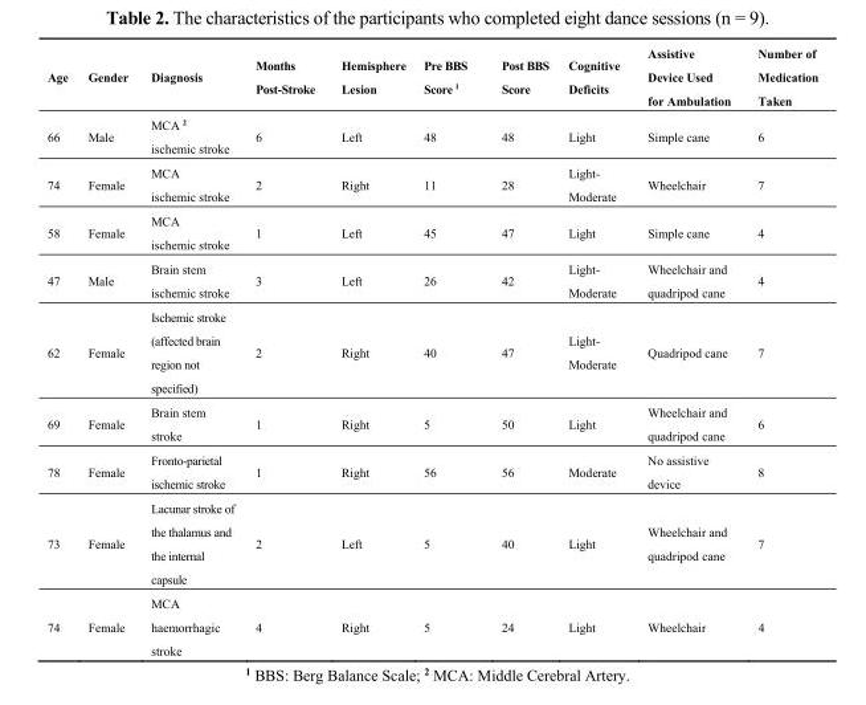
<table><thead><tr><td>Age</td><td>Gender</td><td>Diagnosis</td><td>Months Post-Stroke</td><td>Hemisphere Lesion</td><td>Pre BBS Score <sup>1</sup></td><td>Post BBS Score</td><td>Cognitive Deficits</td><td>Assistive Device Used for Ambulation</td><td>Number of Medication Taken</td></tr></thead><tbody><tr><td>66</td><td>Male</td><td>MCA <sup>2</sup> ischemic stroke</td><td>6</td><td>Left</td><td>48</td><td>48</td><td>Light</td><td>Simple cane</td><td>6</td></tr><tr><td>74</td><td>Female</td><td>MCA ischemic stroke</td><td>2</td><td>Right</td><td>11</td><td>28</td><td>Light- Moderate</td><td>Wheelchair</td><td>7</td></tr><tr><td>58</td><td>Female</td><td>MCA ischemic stroke</td><td>1</td><td>Left</td><td>45</td><td>47</td><td>Light</td><td>Simple cane</td><td>4</td></tr><tr><td>47</td><td>Male</td><td>Brain stem ischemic stroke</td><td>3</td><td>Left</td><td>26</td><td>42</td><td>Light- Moderate</td><td>Wheelchair and quadripod cane</td><td>4</td></tr><tr><td>62</td><td>Female</td><td>Ischemic stroke (affected brain region not specified)</td><td>2</td><td>Right</td><td>40</td><td>47</td><td>Light- Moderate</td><td>Quadripod cane</td><td>7</td></tr><tr><td>69</td><td>Female</td><td>Brain stem stroke</td><td>1</td><td>Right</td><td>5</td><td>50</td><td>Light</td><td>Wheelchair and quadripod cane</td><td>6</td></tr><tr><td>78</td><td>Female</td><td>Fronto-parietal ischemic stroke</td><td>1</td><td>Right</td><td>56</td><td>56</td><td>Moderate</td><td>No assistive device</td><td>8</td></tr><tr><td>73</td><td>Female</td><td>Lacunar stroke of the thalamus and the internal capsule</td><td>2</td><td>Left</td><td>5</td><td>40</td><td>Light</td><td>Wheelchair and quadripod cane</td><td>7</td></tr><tr><td>74</td><td>Female</td><td>MCA haemorrhagic stroke</td><td>4</td><td>Right</td><td>5</td><td>24</td><td>Light</td><td>Wheelchair</td><td>4</td></tr></tbody></table>